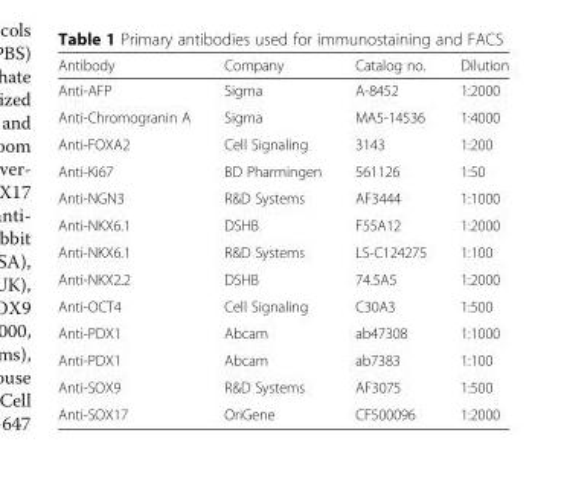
<table><thead><tr><td>Antibody</td><td>Company</td><td>Catalog no.</td><td>Dilution</td></tr></thead><tbody><tr><td>Anti-AFP</td><td>Sigma</td><td>A-8452</td><td>1:2000</td></tr><tr><td>Anti-Chromogranin A</td><td>Sigma</td><td>MA5-14536</td><td>1:4000</td></tr><tr><td>Anti-FOXA2</td><td>Cell Signaling</td><td>3143</td><td>1:200</td></tr><tr><td>Anti-Ki67</td><td>BD Pharmingen</td><td>561126</td><td>1:50</td></tr><tr><td>Anti-NGN3</td><td>R&amp;D Systems</td><td>AF3444</td><td>1:1000</td></tr><tr><td>Anti-NKX6.1</td><td>DSHB</td><td>F55A12</td><td>1:2000</td></tr><tr><td>Anti-NKX6.1</td><td>R&amp;D Systems</td><td>LS-C124275</td><td>1:100</td></tr><tr><td>Anti-NKX2.2</td><td>DSHB</td><td>74.5A5</td><td>1:2000</td></tr><tr><td>Anti-OCT4</td><td>Cell Signaling</td><td>C30A3</td><td>1:500</td></tr><tr><td>Anti-PDX1</td><td>Abcam</td><td>ab47308</td><td>1:1000</td></tr><tr><td>Anti-PDX1</td><td>Abcam</td><td>ab7383</td><td>1:100</td></tr><tr><td>Anti-SOX9</td><td>R&amp;D Systems</td><td>AF3075</td><td>1:500</td></tr><tr><td>Anti-SOX17</td><td>OriGene</td><td>CF500096</td><td>1:2000</td></tr></tbody></table>